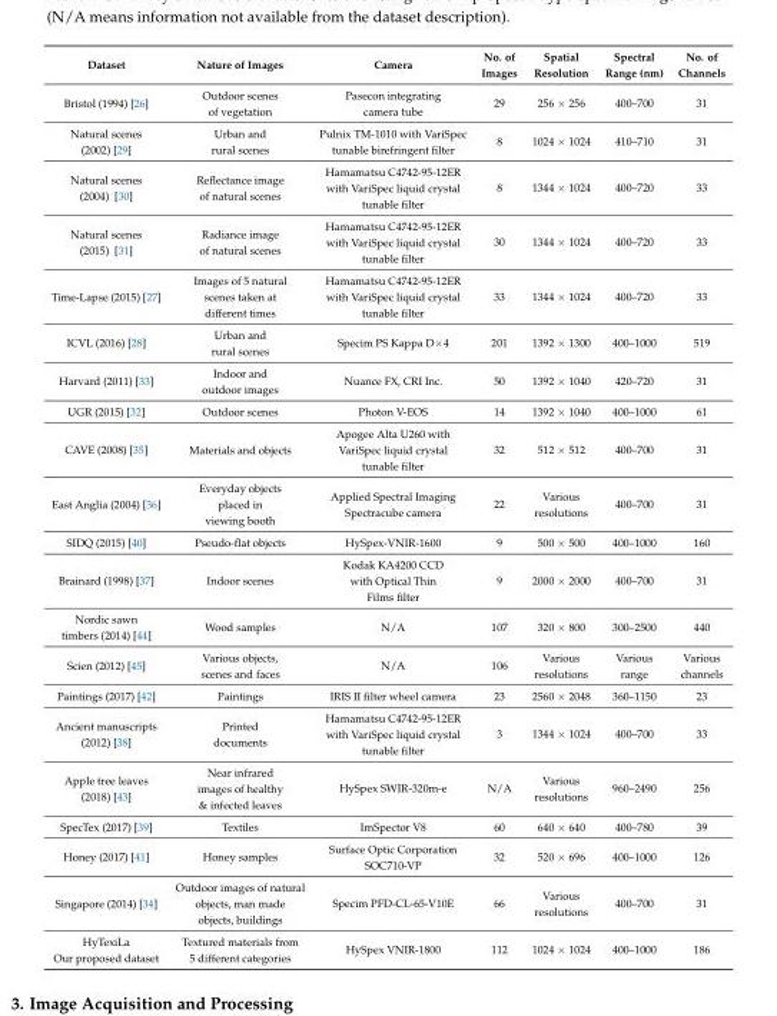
<table><thead><tr><td>Dataset</td><td>Nature of Images</td><td>Camera</td><td>No. of Images</td><td>Spatial Resolution</td><td>Spectral Range (nm)</td><td>No. of Channels</td></tr></thead><tbody><tr><td>Bristol (1994) [26]</td><td>Outdoor scenes of vegetation</td><td>Pasecon integrating camera tube</td><td>29</td><td>256 × 256</td><td>400–700</td><td>31</td></tr><tr><td>Natural scenes (2002) [29]</td><td>Urban and rural scenes</td><td>Pulnix TM-1010 with VariSpec tunable birefringent filter</td><td>8</td><td>1024 × 1024</td><td>410–710</td><td>31</td></tr><tr><td>Natural scenes (2004) [30]</td><td>Reflectance image of natural scenes</td><td>Hamamatsu C4742-95-12ER with VariSpec liquid crystal tunable filter</td><td>8</td><td>1344 × 1024</td><td>400–720</td><td>33</td></tr><tr><td>Natural scenes (2015) [31]</td><td>Radiance image of natural scenes</td><td>Hamamatsu C4742-95-12ER with VariSpec liquid crystal tunable filter</td><td>30</td><td>1344 × 1024</td><td>400–720</td><td>33</td></tr><tr><td>Time-Lapse (2015) [27]</td><td>Images of 5 natural scenes taken at different times</td><td>Hamamatsu C4742-95-12ER with VariSpec liquid crystal tunable filter</td><td>33</td><td>1344 × 1024</td><td>400–720</td><td>33</td></tr><tr><td>ICVL (2016) [28]</td><td>Urban and rural scenes</td><td>Specim PS Kappa D×4</td><td>201</td><td>1392 × 1300</td><td>400–1000</td><td>519</td></tr><tr><td>Harvard (2011) [33]</td><td>Indoor and outdoor images</td><td>Nuance FX, CRI Inc.</td><td>50</td><td>1392 × 1040</td><td>420–720</td><td>31</td></tr><tr><td>UGR (2015) [32]</td><td>Outdoor scenes</td><td>Photon V-EOS</td><td>14</td><td>1392 × 1040</td><td>400–1000</td><td>61</td></tr><tr><td>CAVE (2008) [35]</td><td>Materials and objects</td><td>Apogee Alta U260 with VariSpec liquid crystal tunable filter</td><td>32</td><td>512 × 512</td><td>400–700</td><td>31</td></tr><tr><td>East Anglia (2004) [36]</td><td>Everyday objects placed in viewing booth</td><td>Applied Spectral Imaging Spectracube camera</td><td>22</td><td>Various resolutions</td><td>400–700</td><td>31</td></tr><tr><td>SIDQ (2015) [40]</td><td>Pseudo-flat objects</td><td>HySpex-VNIR-1600</td><td>9</td><td>500 × 500</td><td>400–1000</td><td>160</td></tr><tr><td>Brainard (1998) [37]</td><td>Indoor scenes</td><td>Kodak KA4200 CCD with Optical Thin Films filter</td><td>9</td><td>2000 × 2000</td><td>400–700</td><td>31</td></tr><tr><td>Nordic sawn timbers (2014) [44]</td><td>Wood samples</td><td>N/A</td><td>107</td><td>320 × 800</td><td>300–2500</td><td>440</td></tr><tr><td>Scien (2012) [45]</td><td>Various objects, scenes and faces</td><td>N/A</td><td>106</td><td>Various resolutions</td><td>Various range</td><td>Various channels</td></tr><tr><td>Paintings (2017) [42]</td><td>Paintings</td><td>IRIS II filter wheel camera</td><td>23</td><td>2560 × 2048</td><td>360–1150</td><td>23</td></tr><tr><td>Ancient manuscripts (2012) [38]</td><td>Printed documents</td><td>Hamamatsu C4742-95-12ER with VariSpec liquid crystal tunable filter</td><td>3</td><td>1344 × 1024</td><td>400–700</td><td>33</td></tr><tr><td>Apple tree leaves (2018) [43]</td><td>Near infrared images of healthy &amp; infected leaves</td><td>HySpex SWIR-320m-e</td><td>N/A</td><td>Various resolutions</td><td>960–2490</td><td>256</td></tr><tr><td>SpecTex (2017) [39]</td><td>Textiles</td><td>ImSpector V8</td><td>60</td><td>640 × 640</td><td>400–780</td><td>39</td></tr><tr><td>Honey (2017) [41]</td><td>Honey samples</td><td>Surface Optic Corporation SOC710-VP</td><td>32</td><td>520 × 696</td><td>400–1000</td><td>126</td></tr><tr><td>Singapore (2014) [34]</td><td>Outdoor images of natural objects, man made objects, buildings</td><td>Specim PFD-CL-65-V10E</td><td>66</td><td>Various resolutions</td><td>400–700</td><td>31</td></tr><tr><td>HyTexiLa Our proposed dataset</td><td>Textured materials from 5 different categories</td><td>HySpex VNIR-1800</td><td>112</td><td>1024 × 1024</td><td>400–1000</td><td>186</td></tr></tbody></table>